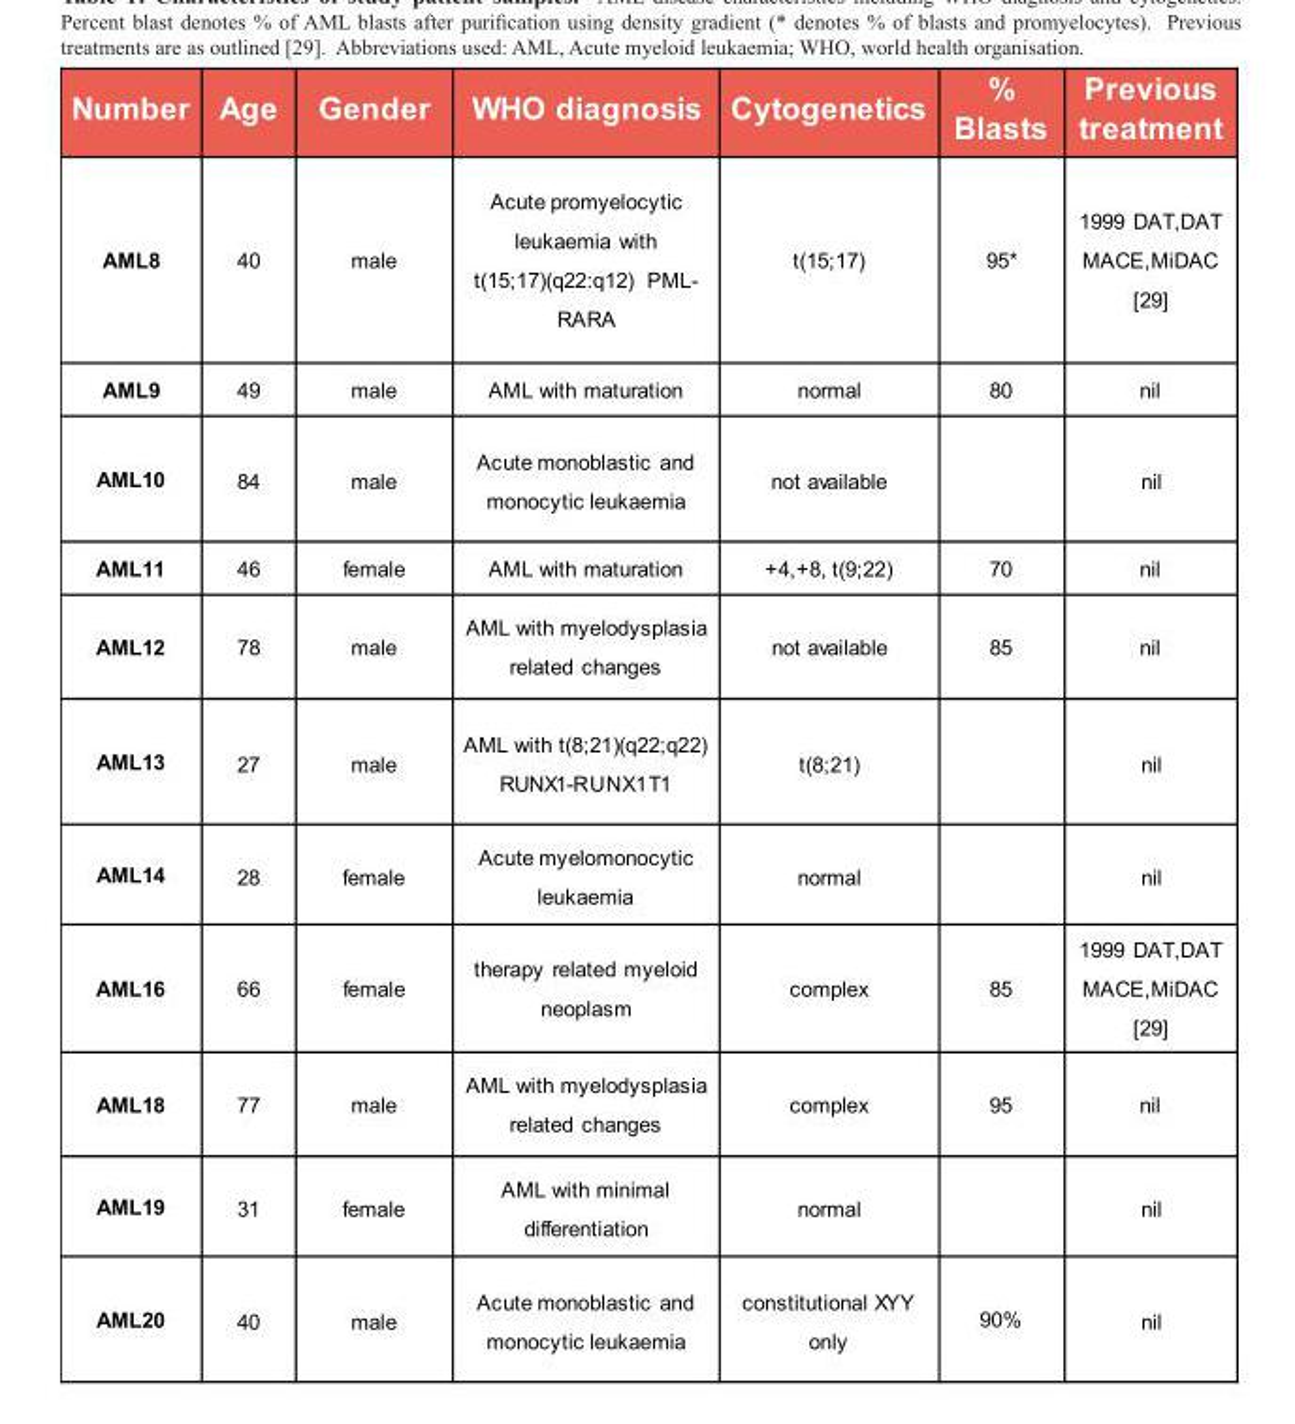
<table><thead><tr><td>Number</td><td>Age</td><td>Gender</td><td>WHO diagnosis</td><td>Cytogenetics</td><td>% Blasts</td><td>Previous treatment</td></tr></thead><tbody><tr><td>AML8</td><td>40</td><td>male</td><td>Acute promyelocytic leukaemia with t(15;17)(q22:q12) PML- RARA</td><td>t(15;17)</td><td>95*</td><td>1999 DAT,DAT MACE,MiDAC [29]</td></tr><tr><td>AML9</td><td>49</td><td>male</td><td>AML with maturation</td><td>normal</td><td>80</td><td>nil</td></tr><tr><td>AML10</td><td>84</td><td>male</td><td>Acute monoblastic and monocytic leukaemia</td><td>not available</td><td></td><td>nil</td></tr><tr><td>AML11</td><td>46</td><td>female</td><td>AML with maturation</td><td>+4,+8, t(9;22)</td><td>70</td><td>nil</td></tr><tr><td>AML12</td><td>78</td><td>male</td><td>AML with myelodysplasia related changes</td><td>not available</td><td>85</td><td>nil</td></tr><tr><td>AML13</td><td>27</td><td>male</td><td>AML with t(8;21)(q22;q22) RUNX1-RUNX1T1</td><td>t(8;21)</td><td></td><td>nil</td></tr><tr><td>AML14</td><td>28</td><td>female</td><td>Acute myelomonocytic leukaemia</td><td>normal</td><td></td><td>nil</td></tr><tr><td>AML16</td><td>66</td><td>female</td><td>therapy related myeloid neoplasm</td><td>complex</td><td>85</td><td>1999 DAT,DAT MACE,MiDAC [29]</td></tr><tr><td>AML18</td><td>77</td><td>male</td><td>AML with myelodysplasia related changes</td><td>complex</td><td>95</td><td>nil</td></tr><tr><td>AML19</td><td>31</td><td>female</td><td>AML with minimal differentiation</td><td>normal</td><td></td><td>nil</td></tr><tr><td>AML20</td><td>40</td><td>male</td><td>Acute monoblastic and monocytic leukaemia</td><td>constitutional XYY only</td><td>90%</td><td>nil</td></tr></tbody></table>